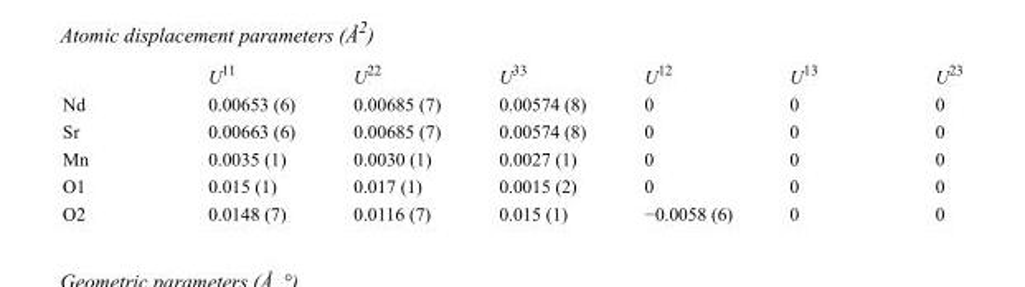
<table><thead><tr><td></td><td>U<sup>11</sup></td><td>U<sup>22</sup></td><td>U<sup>33</sup></td><td>U<sup>12</sup></td><td>U<sup>13</sup></td><td>U<sup>23</sup></td></tr></thead><tbody><tr><td>Nd</td><td>0.00653 (6)</td><td>0.00685 (7)</td><td>0.00574 (8)</td><td>0</td><td>0</td><td>0</td></tr><tr><td>Sr</td><td>0.00663 (6)</td><td>0.00685 (7)</td><td>0.00574 (8)</td><td>0</td><td>0</td><td>0</td></tr><tr><td>Mn</td><td>0.0035 (1)</td><td>0.0030 (1)</td><td>0.0027 (1)</td><td>0</td><td>0</td><td>0</td></tr><tr><td>O1</td><td>0.015 (1)</td><td>0.017 (1)</td><td>0.0015 (2)</td><td>0</td><td>0</td><td>0</td></tr><tr><td>O2</td><td>0.0148 (7)</td><td>0.0116 (7)</td><td>0.015 (1)</td><td>−0.0058 (6)</td><td>0</td><td>0</td></tr></tbody></table>